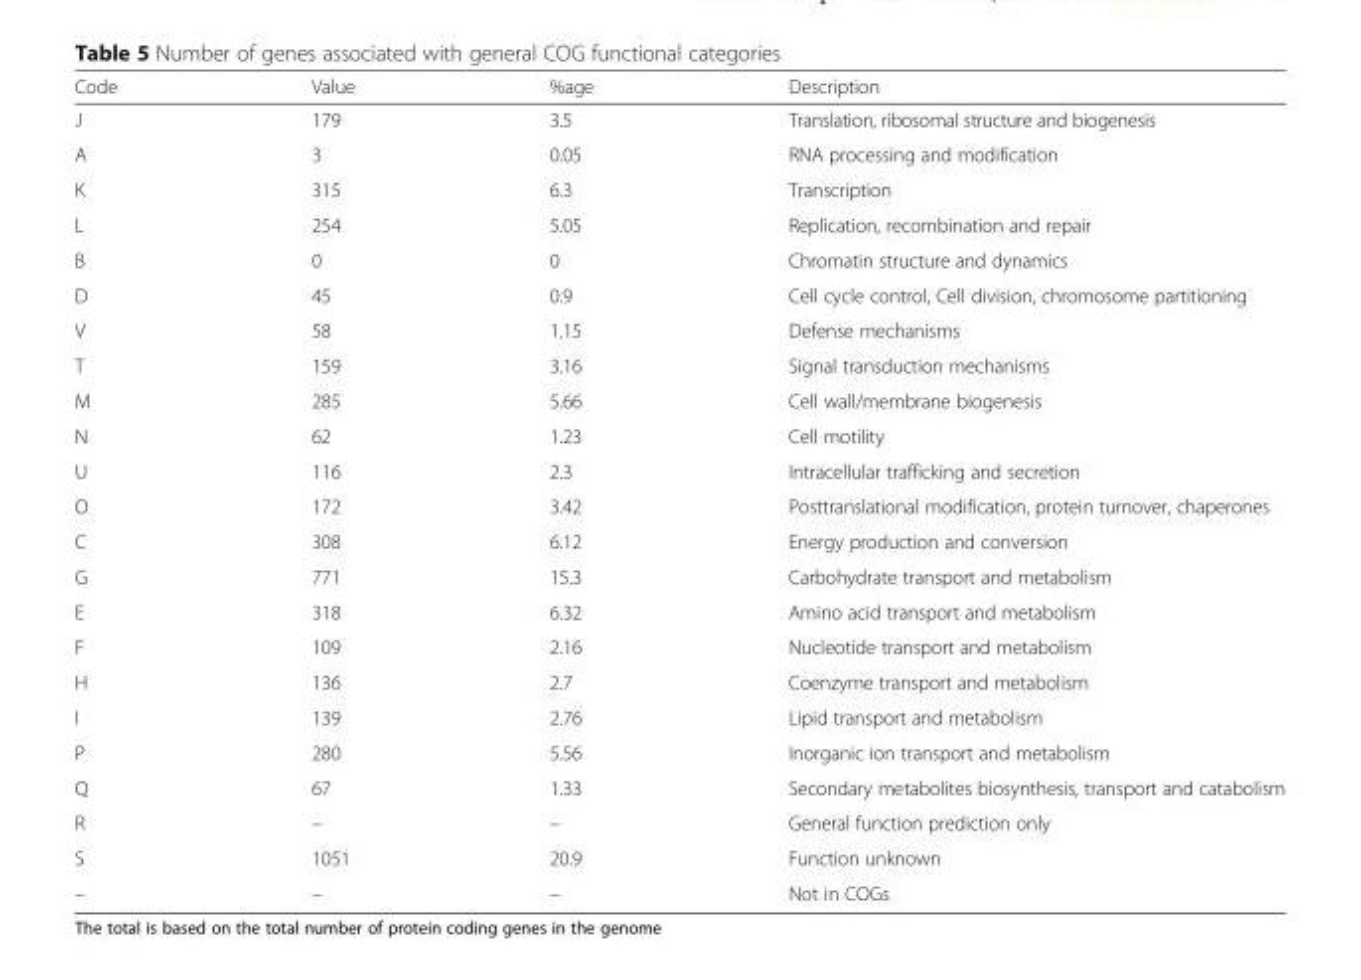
<table><thead><tr><td>Code</td><td>Value</td><td>%age</td><td>Description</td></tr></thead><tbody><tr><td>J</td><td>179</td><td>3.5</td><td>Translation, ribosomal structure and biogenesis</td></tr><tr><td>A</td><td>3</td><td>0.05</td><td>RNA processing and modification</td></tr><tr><td>K</td><td>315</td><td>6.3</td><td>Transcription</td></tr><tr><td>L</td><td>254</td><td>5.05</td><td>Replication, recombination and repair</td></tr><tr><td>B</td><td>0</td><td>0</td><td>Chromatin structure and dynamics</td></tr><tr><td>D</td><td>45</td><td>0.9</td><td>Cell cycle control, Cell division, chromosome partitioning</td></tr><tr><td>V</td><td>58</td><td>1.15</td><td>Defense mechanisms</td></tr><tr><td>T</td><td>159</td><td>3.16</td><td>Signal transduction mechanisms</td></tr><tr><td>M</td><td>285</td><td>5.66</td><td>Cell wall/membrane biogenesis</td></tr><tr><td>N</td><td>62</td><td>1.23</td><td>Cell motility</td></tr><tr><td>U</td><td>116</td><td>2.3</td><td>Intracellular trafficking and secretion</td></tr><tr><td>O</td><td>172</td><td>3.42</td><td>Posttranslational modification, protein turnover, chaperones</td></tr><tr><td>C</td><td>308</td><td>6.12</td><td>Energy production and conversion</td></tr><tr><td>G</td><td>771</td><td>15.3</td><td>Carbohydrate transport and metabolism</td></tr><tr><td>E</td><td>318</td><td>6.32</td><td>Amino acid transport and metabolism</td></tr><tr><td>F</td><td>109</td><td>2.16</td><td>Nucleotide transport and metabolism</td></tr><tr><td>H</td><td>136</td><td>2.7</td><td>Coenzyme transport and metabolism</td></tr><tr><td>I</td><td>139</td><td>2.76</td><td>Lipid transport and metabolism</td></tr><tr><td>P</td><td>280</td><td>5.56</td><td>Inorganic ion transport and metabolism</td></tr><tr><td>Q</td><td>67</td><td>1.33</td><td>Secondary metabolites biosynthesis, transport and catabolism</td></tr><tr><td>R</td><td>–</td><td>–</td><td>General function prediction only</td></tr><tr><td>S</td><td>1051</td><td>20.9</td><td>Function unknown</td></tr><tr><td>–</td><td>–</td><td>–</td><td>Not in COGs</td></tr></tbody></table>